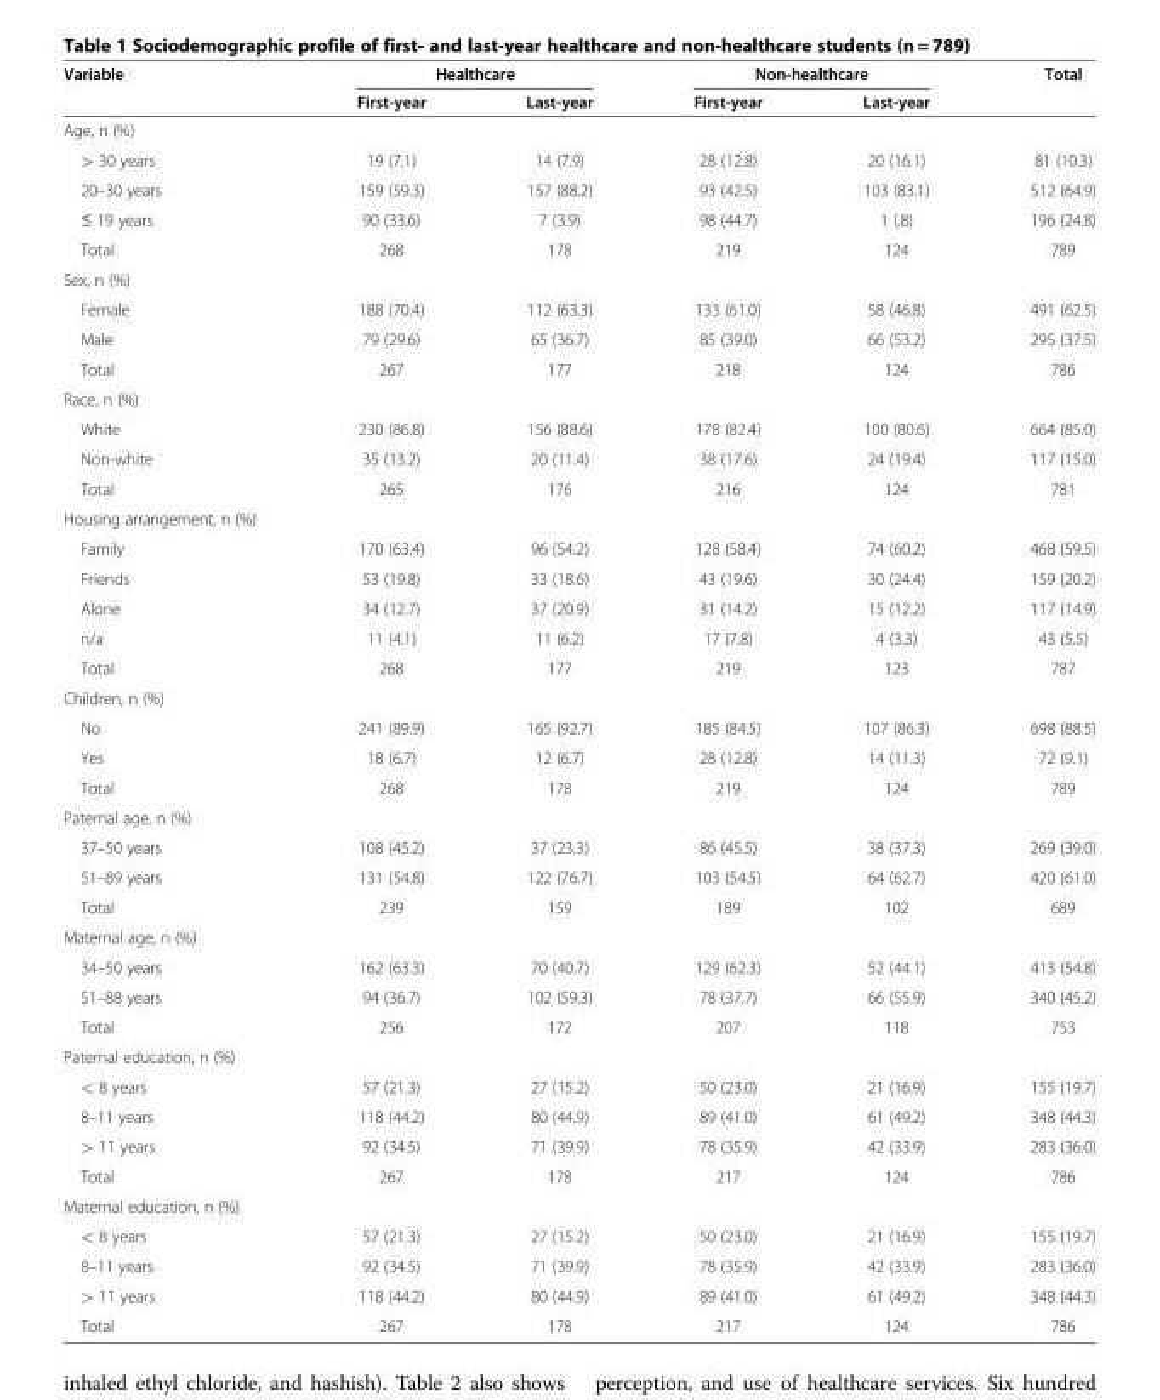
<table><thead><tr><td rowspan="2">Variable</td><td colspan="2">Healthcare</td><td colspan="2">Non-healthcare</td><td rowspan="2">Total</td></tr><tr><td>First-year</td><td>Last-year</td><td>First-year</td><td>Last-year</td></tr></thead><tbody><tr><td colspan="6">Age, n (%)</td></tr><tr><td>&gt; 30 years</td><td>19 (7.1)</td><td>14 (7.9)</td><td>28 (12.8)</td><td>20 (16.1)</td><td>81 (10.3)</td></tr><tr><td>20–30 years</td><td>159 (59.3)</td><td>157 (88.2)</td><td>93 (42.5)</td><td>103 (83.1)</td><td>512 (64.9)</td></tr><tr><td>≤ 19 years</td><td>90 (33.6)</td><td>7 (3.9)</td><td>98 (44.7)</td><td>1 (.8)</td><td>196 (24.8)</td></tr><tr><td>Total</td><td>268</td><td>178</td><td>219</td><td>124</td><td>789</td></tr><tr><td colspan="6">Sex, n (%)</td></tr><tr><td>Female</td><td>188 (70.4)</td><td>112 (63.3)</td><td>133 (61.0)</td><td>58 (46.8)</td><td>491 (62.5)</td></tr><tr><td>Male</td><td>79 (29.6)</td><td>65 (36.7)</td><td>85 (39.0)</td><td>66 (53.2)</td><td>295 (37.5)</td></tr><tr><td>Total</td><td>267</td><td>177</td><td>218</td><td>124</td><td>786</td></tr><tr><td colspan="6">Race, n (%)</td></tr><tr><td>White</td><td>230 (86.8)</td><td>156 (88.6)</td><td>178 (82.4)</td><td>100 (80.6)</td><td>664 (85.0)</td></tr><tr><td>Non-white</td><td>35 (13.2)</td><td>20 (11.4)</td><td>38 (17.6)</td><td>24 (19.4)</td><td>117 (15.0)</td></tr><tr><td>Total</td><td>265</td><td>176</td><td>216</td><td>124</td><td>781</td></tr><tr><td colspan="6">Housing arrangement, n (%)</td></tr><tr><td>Family</td><td>170 (63.4)</td><td>96 (54.2)</td><td>128 (58.4)</td><td>74 (60.2)</td><td>468 (59.5)</td></tr><tr><td>Friends</td><td>53 (19.8)</td><td>33 (18.6)</td><td>43 (19.6)</td><td>30 (24.4)</td><td>159 (20.2)</td></tr><tr><td>Alone</td><td>34 (12.7)</td><td>37 (20.9)</td><td>31 (14.2)</td><td>15 (12.2)</td><td>117 (14.9)</td></tr><tr><td>n/a</td><td>11 (4.1)</td><td>11 (6.2)</td><td>17 (7.8)</td><td>4 (3.3)</td><td>43 (5.5)</td></tr><tr><td>Total</td><td>268</td><td>177</td><td>219</td><td>123</td><td>787</td></tr><tr><td colspan="6">Children, n (%)</td></tr><tr><td>No</td><td>241 (89.9)</td><td>165 (92.7)</td><td>185 (84.5)</td><td>107 (86.3)</td><td>698 (88.5)</td></tr><tr><td>Yes</td><td>18 (6.7)</td><td>12 (6.7)</td><td>28 (12.8)</td><td>14 (11.3)</td><td>72 (9.1)</td></tr><tr><td>Total</td><td>268</td><td>178</td><td>219</td><td>124</td><td>789</td></tr><tr><td colspan="6">Paternal age, n (%)</td></tr><tr><td>37–50 years</td><td>108 (45.2)</td><td>37 (23.3)</td><td>86 (45.5)</td><td>38 (37.3)</td><td>269 (39.0)</td></tr><tr><td>51–89 years</td><td>131 (54.8)</td><td>122 (76.7)</td><td>103 (54.5)</td><td>64 (62.7)</td><td>420 (61.0)</td></tr><tr><td>Total</td><td>239</td><td>159</td><td>189</td><td>102</td><td>689</td></tr><tr><td colspan="6">Maternal age, n (%)</td></tr><tr><td>34–50 years</td><td>162 (63.3)</td><td>70 (40.7)</td><td>129 (62.3)</td><td>52 (44.1)</td><td>413 (54.8)</td></tr><tr><td>51–88 years</td><td>94 (36.7)</td><td>102 (59.3)</td><td>78 (37.7)</td><td>66 (55.9)</td><td>340 (45.2)</td></tr><tr><td>Total</td><td>256</td><td>172</td><td>207</td><td>118</td><td>753</td></tr><tr><td colspan="6">Paternal education, n (%)</td></tr><tr><td>&lt; 8 years</td><td>57 (21.3)</td><td>27 (15.2)</td><td>50 (23.0)</td><td>21 (16.9)</td><td>155 (19.7)</td></tr><tr><td>8–11 years</td><td>118 (44.2)</td><td>80 (44.9)</td><td>89 (41.0)</td><td>61 (49.2)</td><td>348 (44.3)</td></tr><tr><td>&gt; 11 years</td><td>92 (34.5)</td><td>71 (39.9)</td><td>78 (35.9)</td><td>42 (33.9)</td><td>283 (36.0)</td></tr><tr><td>Total</td><td>267</td><td>178</td><td>217</td><td>124</td><td>786</td></tr><tr><td colspan="6">Maternal education, n (%)</td></tr><tr><td>&lt; 8 years</td><td>57 (21.3)</td><td>27 (15.2)</td><td>50 (23.0)</td><td>21 (16.9)</td><td>155 (19.7)</td></tr><tr><td>8–11 years</td><td>92 (34.5)</td><td>71 (39.9)</td><td>78 (35.9)</td><td>42 (33.9)</td><td>283 (36.0)</td></tr><tr><td>&gt; 11 years</td><td>118 (44.2)</td><td>80 (44.9)</td><td>89 (41.0)</td><td>61 (49.2)</td><td>348 (44.3)</td></tr><tr><td>Total</td><td>267</td><td>178</td><td>217</td><td>124</td><td>786</td></tr></tbody></table>